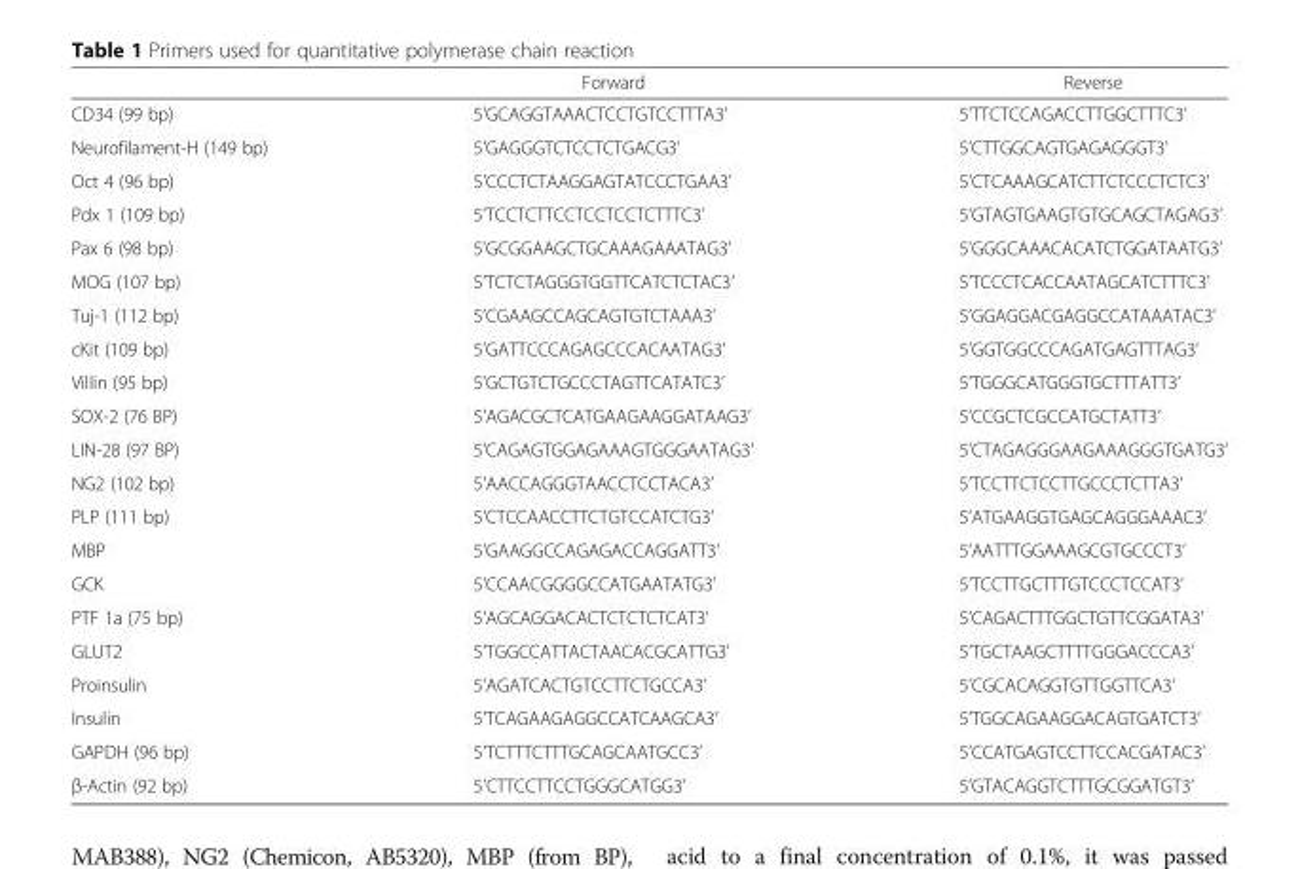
<table><thead><tr><td></td><td>Forward</td><td>Reverse</td></tr></thead><tbody><tr><td>CD34 (99 bp)</td><td>5’GCAGGTAAACTCCTGTCCTTTA3’</td><td>5’TTCTCCAGACCTTGGCTTTC3’</td></tr><tr><td>Neurofilament-H (149 bp)</td><td>5’GAGGGTCTCCTCTGACG3’</td><td>5’CTTGGCAGTGAGAGGGT3’</td></tr><tr><td>Oct 4 (96 bp)</td><td>5’CCCTCTAAGGAGTATCCCTGAA3’</td><td>5’CTCAAAGCATCTTCTCCCTCTC3’</td></tr><tr><td>Pdx 1 (109 bp)</td><td>5’TCCTCTTCCTCCTCCTCTTTC3’</td><td>5’GTAGTGAAGTGTGCAGCTAGAG3’</td></tr><tr><td>Pax 6 (98 bp)</td><td>5’GCGGAAGCTGCAAAGAAATAG3’</td><td>5’GGGCAAACACATCTGGATAATG3’</td></tr><tr><td>MOG (107 bp)</td><td>5’TCTCTAGGGTGGTTCATCTCTAC3’</td><td>5’TCCCTCACCAATAGCATCTTTC3’</td></tr><tr><td>Tuj-1 (112 bp)</td><td>5’CGAAGCCAGCAGTGTCTAAA3’</td><td>5’GGAGGACGAGGCCATAAATAC3’</td></tr><tr><td>cKit (109 bp)</td><td>5’GATTCCCAGAGCCCACAATAG3’</td><td>5’GGTGGCCCAGATGAGTTTAG3’</td></tr><tr><td>Villin (95 bp)</td><td>5’GCTGTCTGCCCTAGTTCATATC3’</td><td>5’TGGGCATGGGTGCTTTATT3’</td></tr><tr><td>SOX-2 (76 BP)</td><td>5’AGACGCTCATGAAGAAGGATAAG3’</td><td>5’CCGCTCGCCATGCTATT3’</td></tr><tr><td>LIN-28 (97 BP)</td><td>5’CAGAGTGGAGAAAGTGGGAATAG3’</td><td>5’CTAGAGGGAAGAAAGGGTGATG3’</td></tr><tr><td>NG2 (102 bp)</td><td>5’AACCAGGGTAACCTCCTACA3’</td><td>5’TCCTTCTCCTTGCCCTCTTA3’</td></tr><tr><td>PLP (111 bp)</td><td>5’CTCCAACCTTCTGTCCATCTG3’</td><td>5’ATGAAGGTGAGCAGGGAAAC3’</td></tr><tr><td>MBP</td><td>5’GAAGGCCAGAGACCAGGATT3’</td><td>5’AATTTGGAAAGCGTGCCCT3’</td></tr><tr><td>GCK</td><td>5’CCAACGGGGCCATGAATATG3’</td><td>5’TCCTTGCTTTGTCCCTCCAT3’</td></tr><tr><td>PTF 1a (75 bp)</td><td>5’AGCAGGACACTCTCTCTCAT3’</td><td>5’CAGACTTTGGCTGTTCGGATA3’</td></tr><tr><td>GLUT2</td><td>5’TGGCCATTACTAACACGCATTG3’</td><td>5’TGCTAAGCTTTTGGGACCCA3’</td></tr><tr><td>Proinsulin</td><td>5’AGATCACTGTCCTTCTGCCA3’</td><td>5’CGCACAGGTGTTGGTTCA3’</td></tr><tr><td>Insulin</td><td>5’TCAGAAGAGGCCATCAAGCA3’</td><td>5’TGGCAGAAGGACAGTGATCT3’</td></tr><tr><td>GAPDH (96 bp)</td><td>5’TCTTTCTTTGCAGCAATGCC3’</td><td>5’CCATGAGTCCTTCCACGATAC3’</td></tr><tr><td>β-Actin (92 bp)</td><td>5’CTTCCTTCCTGGGCATGG3’</td><td>5’GTACAGGTCTTTGCGGATGT3’</td></tr></tbody></table>